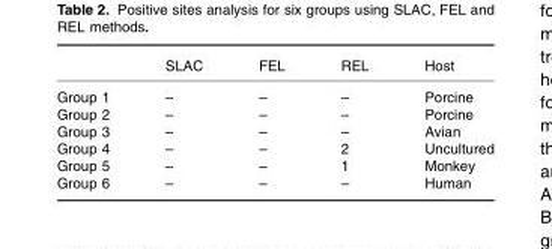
<table><thead><tr><td></td><td>SLAC</td><td>FEL</td><td>REL</td><td>Host</td></tr></thead><tbody><tr><td>Group 1</td><td>–</td><td>–</td><td>–</td><td>Porcine</td></tr><tr><td>Group 2</td><td>–</td><td>–</td><td>–</td><td>Porcine</td></tr><tr><td>Group 3</td><td>–</td><td>–</td><td>–</td><td>Avian</td></tr><tr><td>Group 4</td><td>–</td><td>–</td><td>2</td><td>Uncultured</td></tr><tr><td>Group 5</td><td>–</td><td>–</td><td>1</td><td>Monkey</td></tr><tr><td>Group 6</td><td>–</td><td>–</td><td>–</td><td>Human</td></tr></tbody></table>